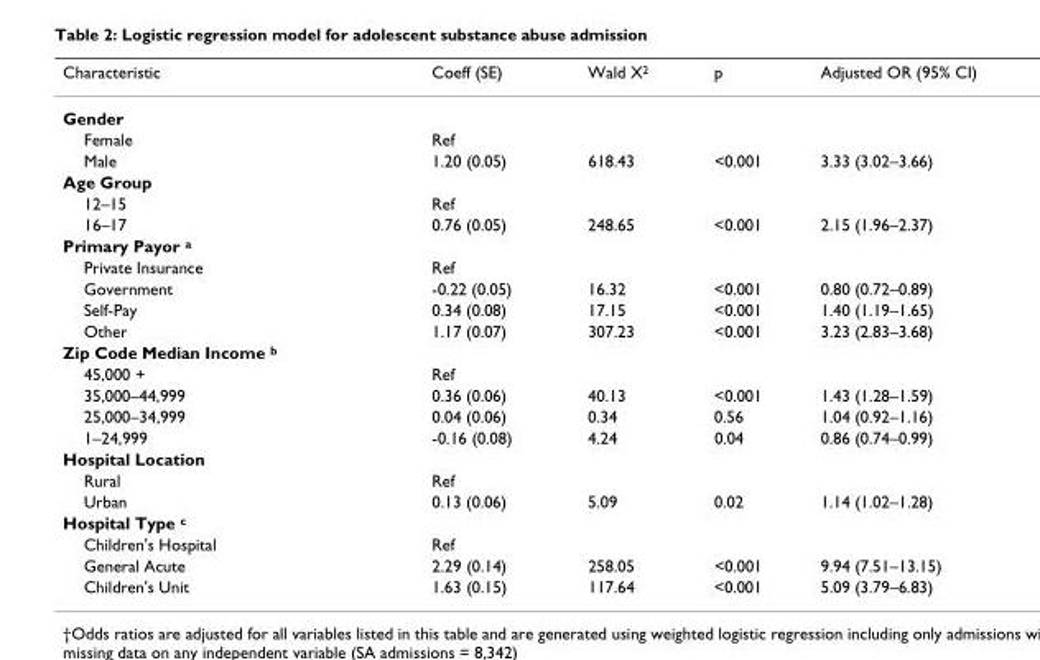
<table><thead><tr><td>Characteristic</td><td>Coeff (SE)</td><td>Wald X<sup>2</sup></td><td>p</td><td>Adjusted OR (95% CI)</td></tr></thead><tbody><tr><td colspan="5">Gender</td></tr><tr><td>Female</td><td>Ref</td><td></td><td></td><td></td></tr><tr><td>Male</td><td>1.20 (0.05)</td><td>618.43</td><td>&lt;0.001</td><td>3.33 (3.02–3.66)</td></tr><tr><td colspan="5">Age Group</td></tr><tr><td>12–15</td><td>Ref</td><td></td><td></td><td></td></tr><tr><td>16–17</td><td>0.76 (0.05)</td><td>248.65</td><td>&lt;0.001</td><td>2.15 (1.96–2.37)</td></tr><tr><td colspan="5">Primary Payor <sup>a</sup></td></tr><tr><td>Private Insurance</td><td>Ref</td><td></td><td></td><td></td></tr><tr><td>Government</td><td>-0.22 (0.05)</td><td>16.32</td><td>&lt;0.001</td><td>0.80 (0.72–0.89)</td></tr><tr><td>Self-Pay</td><td>0.34 (0.08)</td><td>17.15</td><td>&lt;0.001</td><td>1.40 (1.19–1.65)</td></tr><tr><td>Other</td><td>1.17 (0.07)</td><td>307.23</td><td>&lt;0.001</td><td>3.23 (2.83–3.68)</td></tr><tr><td colspan="5">Zip Code Median Income <sup>b</sup></td></tr><tr><td>45,000 +</td><td>Ref</td><td></td><td></td><td></td></tr><tr><td>35,000–44,999</td><td>0.36 (0.06)</td><td>40.13</td><td>&lt;0.001</td><td>1.43 (1.28–1.59)</td></tr><tr><td>25,000–34,999</td><td>0.04 (0.06)</td><td>0.34</td><td>0.56</td><td>1.04 (0.92–1.16)</td></tr><tr><td>1–24,999</td><td>-0.16 (0.08)</td><td>4.24</td><td>0.04</td><td>0.86 (0.74–0.99)</td></tr><tr><td colspan="5">Hospital Location</td></tr><tr><td>Rural</td><td>Ref</td><td></td><td></td><td></td></tr><tr><td>Urban</td><td>0.13 (0.06)</td><td>5.09</td><td>0.02</td><td>1.14 (1.02–1.28)</td></tr><tr><td colspan="5">Hospital Type <sup>c</sup></td></tr><tr><td>Children&#x27;s Hospital</td><td>Ref</td><td></td><td></td><td></td></tr><tr><td>General Acute</td><td>2.29 (0.14)</td><td>258.05</td><td>&lt;0.001</td><td>9.94 (7.51–13.15)</td></tr><tr><td>Children&#x27;s Unit</td><td>1.63 (0.15)</td><td>117.64</td><td>&lt;0.001</td><td>5.09 (3.79–6.83)</td></tr></tbody></table>